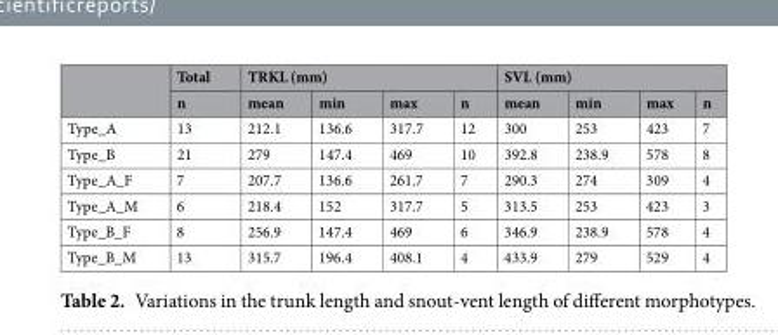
<table><thead><tr><td rowspan="2"></td><td rowspan="2">Total n</td><td colspan="4">TRKL (mm)</td><td colspan="4">SVL (mm)</td></tr><tr><td>mean</td><td>min</td><td>max</td><td>n</td><td>mean</td><td>min</td><td>max</td><td>n</td></tr></thead><tbody><tr><td>Type_A</td><td>13</td><td>212.1</td><td>136.6</td><td>317.7</td><td>12</td><td>300</td><td>253</td><td>423</td><td>7</td></tr><tr><td>Type_B</td><td>21</td><td>279</td><td>147.4</td><td>469</td><td>10</td><td>392.8</td><td>238.9</td><td>578</td><td>8</td></tr><tr><td>Type_A_F</td><td>7</td><td>207.7</td><td>136.6</td><td>261.7</td><td>7</td><td>290.3</td><td>274</td><td>309</td><td>4</td></tr><tr><td>Type_A_M</td><td>6</td><td>218.4</td><td>152</td><td>317.7</td><td>5</td><td>313.5</td><td>253</td><td>423</td><td>3</td></tr><tr><td>Type_B_F</td><td>8</td><td>256.9</td><td>147.4</td><td>469</td><td>6</td><td>346.9</td><td>238.9</td><td>578</td><td>4</td></tr><tr><td>Type_B_M</td><td>13</td><td>315.7</td><td>196.4</td><td>408.1</td><td>4</td><td>433.9</td><td>279</td><td>529</td><td>4</td></tr></tbody></table>